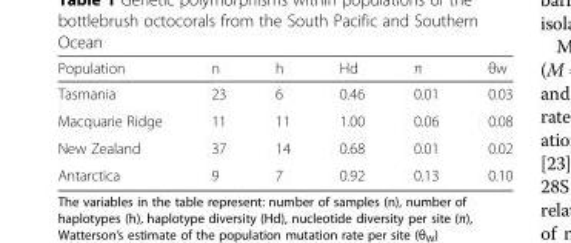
<table><thead><tr><td>Population</td><td>n</td><td>h</td><td>Hd</td><td>π</td><td>θw</td></tr></thead><tbody><tr><td>Tasmania</td><td>23</td><td>6</td><td>0.46</td><td>0.01</td><td>0.03</td></tr><tr><td>Macquarie Ridge</td><td>11</td><td>11</td><td>1.00</td><td>0.06</td><td>0.08</td></tr><tr><td>New Zealand</td><td>37</td><td>14</td><td>0.68</td><td>0.01</td><td>0.02</td></tr><tr><td>Antarctica</td><td>9</td><td>7</td><td>0.92</td><td>0.13</td><td>0.10</td></tr></tbody></table>